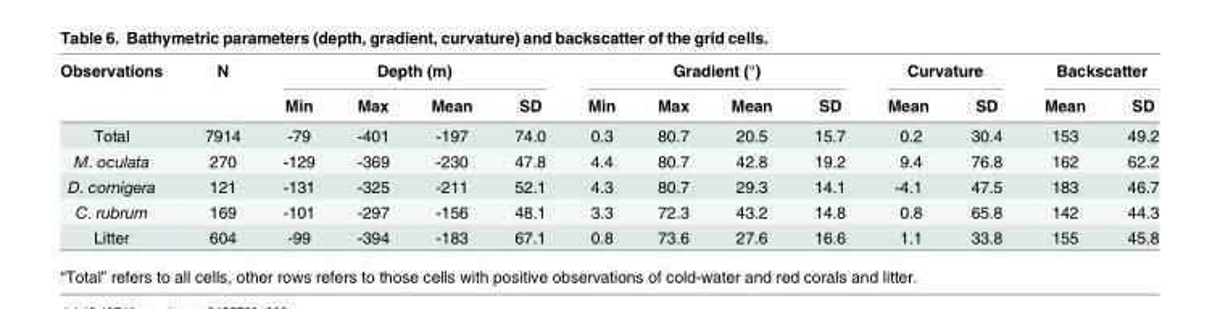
<table><thead><tr><td rowspan="2">Observations</td><td rowspan="2">N</td><td colspan="4">Depth (m)</td><td colspan="4">Gradient (°)</td><td colspan="2">Curvature</td><td colspan="2">Backscatter</td></tr><tr><td>Min</td><td>Max</td><td>Mean</td><td>SD</td><td>Min</td><td>Max</td><td>Mean</td><td>SD</td><td>Mean</td><td>SD</td><td>Mean</td><td>SD</td></tr></thead><tbody><tr><td>Total</td><td>7914</td><td>-79</td><td>-401</td><td>-197</td><td>74.0</td><td>0.3</td><td>80.7</td><td>20.5</td><td>15.7</td><td>0.2</td><td>30.4</td><td>153</td><td>49.2</td></tr><tr><td>M. oculata</td><td>270</td><td>-129</td><td>-369</td><td>-230</td><td>47.8</td><td>4.4</td><td>80.7</td><td>42.8</td><td>19.2</td><td>9.4</td><td>76.8</td><td>162</td><td>62.2</td></tr><tr><td>D. cornigera</td><td>121</td><td>-131</td><td>-325</td><td>-211</td><td>52.1</td><td>4.3</td><td>80.7</td><td>29.3</td><td>14.1</td><td>-4.1</td><td>47.5</td><td>183</td><td>46.7</td></tr><tr><td>C. rubrum</td><td>169</td><td>-101</td><td>-297</td><td>-156</td><td>48.1</td><td>3.3</td><td>72.3</td><td>43.2</td><td>14.8</td><td>0.8</td><td>65.8</td><td>142</td><td>44.3</td></tr><tr><td>Litter</td><td>604</td><td>-99</td><td>-394</td><td>-183</td><td>67.1</td><td>0.8</td><td>73.6</td><td>27.6</td><td>16.6</td><td>1.1</td><td>33.8</td><td>155</td><td>45.8</td></tr></tbody></table>